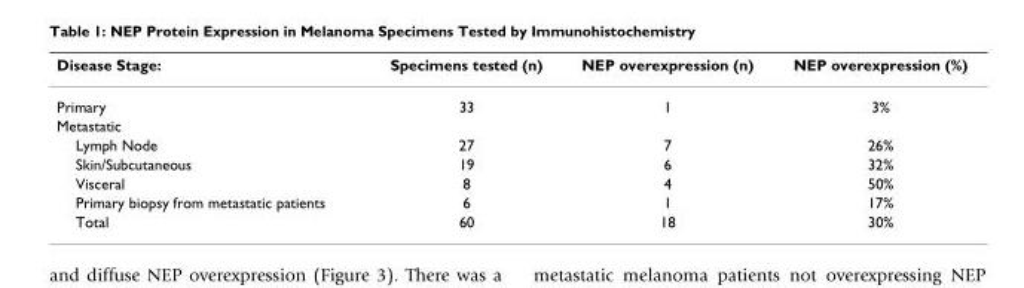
<table><thead><tr><td>Disease Stage:</td><td>Specimens tested (n)</td><td>NEP overexpression (n)</td><td>NEP overexpression (%)</td></tr></thead><tbody><tr><td>Primary</td><td>33</td><td>1</td><td>3%</td></tr><tr><td colspan="4">Metastatic</td></tr><tr><td>Lymph Node</td><td>27</td><td>7</td><td>26%</td></tr><tr><td>Skin/Subcutaneous</td><td>19</td><td>6</td><td>32%</td></tr><tr><td>Visceral</td><td>8</td><td>4</td><td>50%</td></tr><tr><td>Primary biopsy from metastatic patients</td><td>6</td><td>1</td><td>17%</td></tr><tr><td>Total</td><td>60</td><td>18</td><td>30%</td></tr></tbody></table>